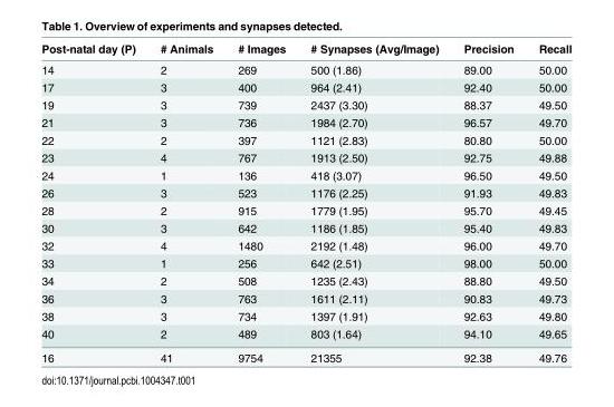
<table><thead><tr><td>Post-natal day (P)</td><td># Animals</td><td># Images</td><td># Synapses (Avg/Image)</td><td>Precision</td><td>Recall</td></tr></thead><tbody><tr><td>14</td><td>2</td><td>269</td><td>500 (1.86)</td><td>89.00</td><td>50.00</td></tr><tr><td>17</td><td>3</td><td>400</td><td>964 (2.41)</td><td>92.40</td><td>50.00</td></tr><tr><td>19</td><td>3</td><td>739</td><td>2437 (3.30)</td><td>88.37</td><td>49.50</td></tr><tr><td>21</td><td>3</td><td>736</td><td>1984 (2.70)</td><td>96.57</td><td>49.70</td></tr><tr><td>22</td><td>2</td><td>397</td><td>1121 (2.83)</td><td>80.80</td><td>50.00</td></tr><tr><td>23</td><td>4</td><td>767</td><td>1913 (2.50)</td><td>92.75</td><td>49.88</td></tr><tr><td>24</td><td>1</td><td>136</td><td>418 (3.07)</td><td>96.50</td><td>49.50</td></tr><tr><td>26</td><td>3</td><td>523</td><td>1176 (2.25)</td><td>91.93</td><td>49.83</td></tr><tr><td>28</td><td>2</td><td>915</td><td>1779 (1.95)</td><td>95.70</td><td>49.45</td></tr><tr><td>30</td><td>3</td><td>642</td><td>1186 (1.85)</td><td>95.40</td><td>49.83</td></tr><tr><td>32</td><td>4</td><td>1480</td><td>2192 (1.48)</td><td>96.00</td><td>49.70</td></tr><tr><td>33</td><td>1</td><td>256</td><td>642 (2.51)</td><td>98.00</td><td>50.00</td></tr><tr><td>34</td><td>2</td><td>508</td><td>1235 (2.43)</td><td>88.80</td><td>49.50</td></tr><tr><td>36</td><td>3</td><td>763</td><td>1611 (2.11)</td><td>90.83</td><td>49.73</td></tr><tr><td>38</td><td>3</td><td>734</td><td>1397 (1.91)</td><td>92.63</td><td>49.80</td></tr><tr><td>40</td><td>2</td><td>489</td><td>803 (1.64)</td><td>94.10</td><td>49.65</td></tr><tr><td>16</td><td>41</td><td>9754</td><td>21355</td><td>92.38</td><td>49.76</td></tr></tbody></table>